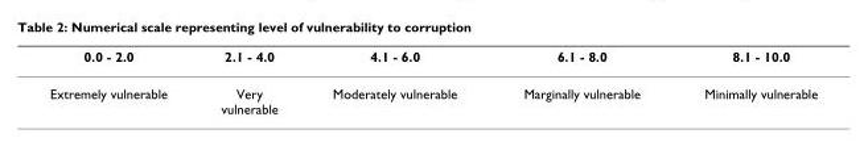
<table><thead><tr><td>0.0 - 2.0</td><td>2.1 - 4.0</td><td>4.1 - 6.0</td><td>6.1 - 8.0</td><td>8.1 - 10.0</td></tr></thead><tbody><tr><td>Extremely vulnerable</td><td>Very vulnerable</td><td>Moderately vulnerable</td><td>Marginally vulnerable</td><td>Minimally vulnerable</td></tr></tbody></table>